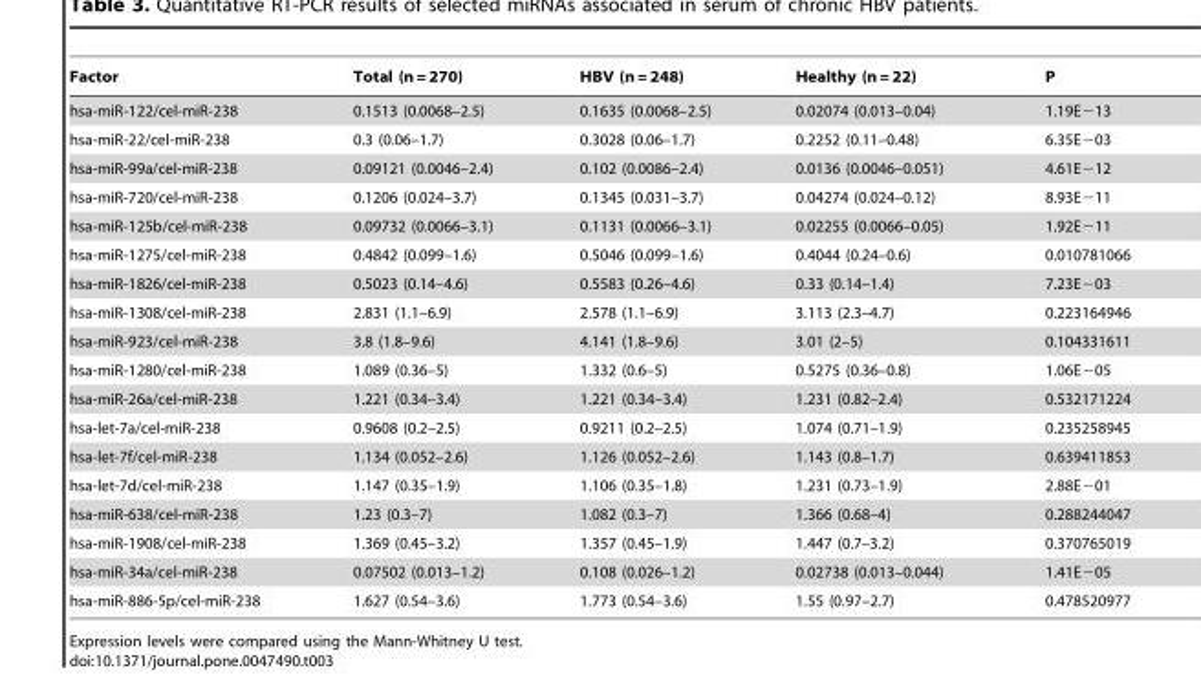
<table><thead><tr><td>Factor</td><td>Total (n = 270)</td><td>HBV (n = 248)</td><td>Healthy (n = 22)</td><td>P</td></tr></thead><tbody><tr><td>hsa-miR-122/cel-miR-238</td><td>0.1513 (0.0068–2.5)</td><td>0.1635 (0.0068–2.5)</td><td>0.02074 (0.013–0.04)</td><td>1.19E−13</td></tr><tr><td>hsa-miR-22/cel-miR-238</td><td>0.3 (0.06–1.7)</td><td>0.3028 (0.06–1.7)</td><td>0.2252 (0.11–0.48)</td><td>6.35E−03</td></tr><tr><td>hsa-miR-99a/cel-miR-238</td><td>0.09121 (0.0046–2.4)</td><td>0.102 (0.0086–2.4)</td><td>0.0136 (0.0046–0.051)</td><td>4.61E−12</td></tr><tr><td>hsa-miR-720/cel-miR-238</td><td>0.1206 (0.024–3.7)</td><td>0.1345 (0.031–3.7)</td><td>0.04274 (0.024–0.12)</td><td>8.93E−11</td></tr><tr><td>hsa-miR-125b/cel-miR-238</td><td>0.09732 (0.0066–3.1)</td><td>0.1131 (0.0066–3.1)</td><td>0.02255 (0.0066–0.05)</td><td>1.92E−11</td></tr><tr><td>hsa-miR-1275/cel-miR-238</td><td>0.4842 (0.099–1.6)</td><td>0.5046 (0.099–1.6)</td><td>0.4044 (0.24–0.6)</td><td>0.010781066</td></tr><tr><td>hsa-miR-1826/cel-miR-238</td><td>0.5023 (0.14–4.6)</td><td>0.5583 (0.26–4.6)</td><td>0.33 (0.14–1.4)</td><td>7.23E−03</td></tr><tr><td>hsa-miR-1308/cel-miR-238</td><td>2.831 (1.1–6.9)</td><td>2.578 (1.1–6.9)</td><td>3.113 (2.3–4.7)</td><td>0.223164946</td></tr><tr><td>hsa-miR-923/cel-miR-238</td><td>3.8 (1.8–9.6)</td><td>4.141 (1.8–9.6)</td><td>3.01 (2–5)</td><td>0.104331611</td></tr><tr><td>hsa-miR-1280/cel-miR-238</td><td>1.089 (0.36–5)</td><td>1.332 (0.6–5)</td><td>0.5275 (0.36–0.8)</td><td>1.06E−05</td></tr><tr><td>hsa-miR-26a/cel-miR-238</td><td>1.221 (0.34–3.4)</td><td>1.221 (0.34–3.4)</td><td>1.231 (0.82–2.4)</td><td>0.532171224</td></tr><tr><td>hsa-let-7a/cel-miR-238</td><td>0.9608 (0.2–2.5)</td><td>0.9211 (0.2–2.5)</td><td>1.074 (0.71–1.9)</td><td>0.235258945</td></tr><tr><td>hsa-let-7f/cel-miR-238</td><td>1.134 (0.052–2.6)</td><td>1.126 (0.052–2.6)</td><td>1.143 (0.8–1.7)</td><td>0.639411853</td></tr><tr><td>hsa-let-7d/cel-miR-238</td><td>1.147 (0.35–1.9)</td><td>1.106 (0.35–1.8)</td><td>1.231 (0.73–1.9)</td><td>2.88E−01</td></tr><tr><td>hsa-miR-638/cel-miR-238</td><td>1.23 (0.3–7)</td><td>1.082 (0.3–7)</td><td>1.366 (0.68–4)</td><td>0.288244047</td></tr><tr><td>hsa-miR-1908/cel-miR-238</td><td>1.369 (0.45–3.2)</td><td>1.357 (0.45–1.9)</td><td>1.447 (0.7–3.2)</td><td>0.370765019</td></tr><tr><td>hsa-miR-34a/cel-miR-238</td><td>0.07502 (0.013–1.2)</td><td>0.108 (0.026–1.2)</td><td>0.02738 (0.013–0.044)</td><td>1.41E−05</td></tr><tr><td>hsa-miR-886-5p/cel-miR-238</td><td>1.627 (0.54–3.6)</td><td>1.773 (0.54–3.6)</td><td>1.55 (0.97–2.7)</td><td>0.478520977</td></tr></tbody></table>